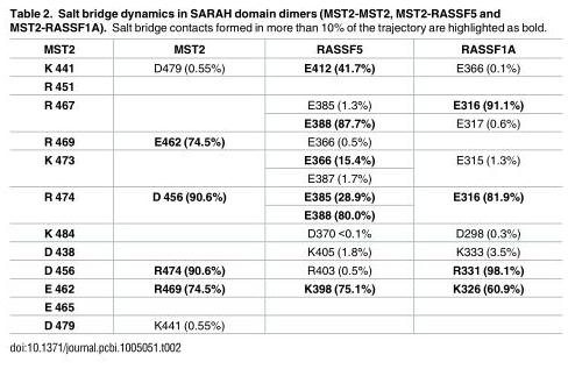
<table><thead><tr><td>MST2</td><td>MST2</td><td>RASSF5</td><td>RASSF1A</td></tr></thead><tbody><tr><td>K 441</td><td>D479 (0.55%)</td><td>E412 (41.7%)</td><td>E366 (0.1%)</td></tr><tr><td colspan="4">R 451</td></tr><tr><td rowspan="2">R 467</td><td rowspan="2"></td><td>E385 (1.3%)</td><td>E316 (91.1%)</td></tr><tr><td>E388 (87.7%)</td><td>E317 (0.6%)</td></tr><tr><td>R 469</td><td>E462 (74.5%)</td><td>E366 (0.5%)</td><td></td></tr><tr><td rowspan="2">K 473</td><td rowspan="2"></td><td>E366 (15.4%)</td><td rowspan="2">E315 (1.3%)</td></tr><tr><td>E387 (1.7%)</td></tr><tr><td rowspan="2">R 474</td><td rowspan="2">D 456 (90.6%)</td><td>E385 (28.9%)</td><td rowspan="2">E316 (81.9%)</td></tr><tr><td>E388 (80.0%)</td></tr><tr><td>K 484</td><td></td><td>D370 &lt;0.1%</td><td>D298 (0.3%)</td></tr><tr><td>D 438</td><td></td><td>K405 (1.8%)</td><td>K333 (3.5%)</td></tr><tr><td>D 456</td><td>R474 (90.6%)</td><td>R403 (0.5%)</td><td>R331 (98.1%)</td></tr><tr><td>E 462</td><td>R469 (74.5%)</td><td>K398 (75.1%)</td><td>K326 (60.9%)</td></tr><tr><td colspan="4">E 465</td></tr><tr><td>D 479</td><td>K441 (0.55%)</td><td></td><td></td></tr></tbody></table>